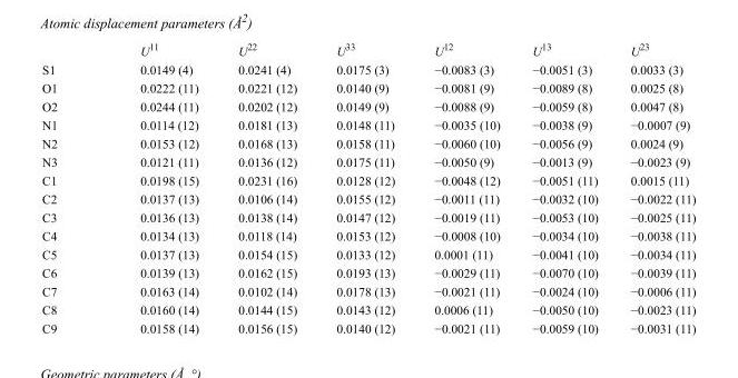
<table><thead><tr><td></td><td>U<sup>11</sup></td><td>U<sup>22</sup></td><td>U<sup>33</sup></td><td>U<sup>12</sup></td><td>U<sup>13</sup></td><td>U<sup>23</sup></td></tr></thead><tbody><tr><td>S1</td><td>0.0149 (4)</td><td>0.0241 (4)</td><td>0.0175 (3)</td><td>−0.0083 (3)</td><td>−0.0051 (3)</td><td>0.0033 (3)</td></tr><tr><td>O1</td><td>0.0222 (11)</td><td>0.0221 (12)</td><td>0.0140 (9)</td><td>−0.0081 (9)</td><td>−0.0089 (8)</td><td>0.0025 (8)</td></tr><tr><td>O2</td><td>0.0244 (11)</td><td>0.0202 (12)</td><td>0.0149 (9)</td><td>−0.0088 (9)</td><td>−0.0059 (8)</td><td>0.0047 (8)</td></tr><tr><td>N1</td><td>0.0114 (12)</td><td>0.0181 (13)</td><td>0.0148 (11)</td><td>−0.0035 (10)</td><td>−0.0038 (9)</td><td>−0.0007 (9)</td></tr><tr><td>N2</td><td>0.0153 (12)</td><td>0.0168 (13)</td><td>0.0158 (11)</td><td>−0.0060 (10)</td><td>−0.0056 (9)</td><td>0.0024 (9)</td></tr><tr><td>N3</td><td>0.0121 (11)</td><td>0.0136 (12)</td><td>0.0175 (11)</td><td>−0.0050 (9)</td><td>−0.0013 (9)</td><td>−0.0023 (9)</td></tr><tr><td>C1</td><td>0.0198 (15)</td><td>0.0231 (16)</td><td>0.0128 (12)</td><td>−0.0048 (12)</td><td>−0.0051 (11)</td><td>0.0015 (11)</td></tr><tr><td>C2</td><td>0.0137 (13)</td><td>0.0106 (14)</td><td>0.0155 (12)</td><td>−0.0011 (11)</td><td>−0.0032 (10)</td><td>−0.0022 (11)</td></tr><tr><td>C3</td><td>0.0136 (13)</td><td>0.0138 (14)</td><td>0.0147 (12)</td><td>−0.0019 (11)</td><td>−0.0053 (10)</td><td>−0.0025 (11)</td></tr><tr><td>C4</td><td>0.0134 (13)</td><td>0.0118 (14)</td><td>0.0153 (12)</td><td>−0.0008 (10)</td><td>−0.0034 (10)</td><td>−0.0038 (11)</td></tr><tr><td>C5</td><td>0.0137 (13)</td><td>0.0154 (15)</td><td>0.0133 (12)</td><td>0.0001 (11)</td><td>−0.0041 (10)</td><td>−0.0034 (11)</td></tr><tr><td>C6</td><td>0.0139 (13)</td><td>0.0162 (15)</td><td>0.0193 (13)</td><td>−0.0029 (11)</td><td>−0.0070 (10)</td><td>−0.0039 (11)</td></tr><tr><td>C7</td><td>0.0163 (14)</td><td>0.0102 (14)</td><td>0.0178 (13)</td><td>−0.0021 (11)</td><td>−0.0024 (10)</td><td>−0.0006 (11)</td></tr><tr><td>C8</td><td>0.0160 (14)</td><td>0.0144 (15)</td><td>0.0143 (12)</td><td>0.0006 (11)</td><td>−0.0050 (10)</td><td>−0.0023 (11)</td></tr><tr><td>C9</td><td>0.0158 (14)</td><td>0.0156 (15)</td><td>0.0140 (12)</td><td>−0.0021 (11)</td><td>−0.0059 (10)</td><td>−0.0031 (11)</td></tr></tbody></table>